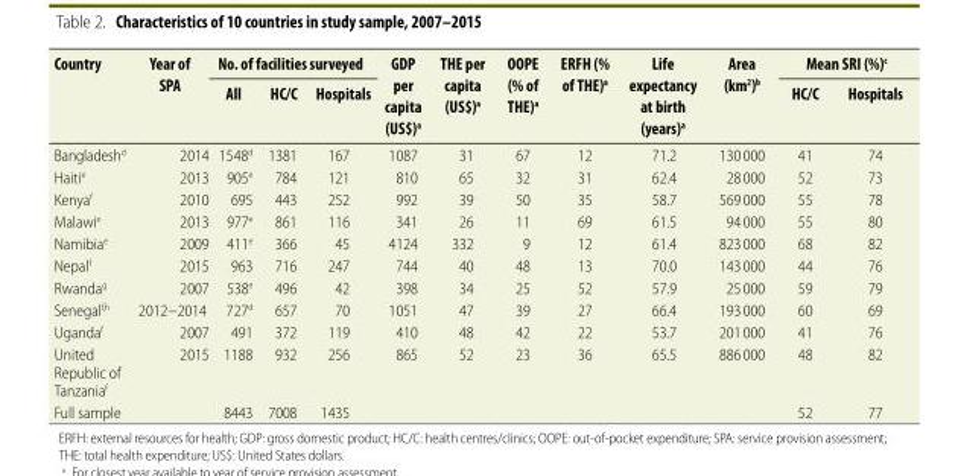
<table><thead><tr><td rowspan="2">Country</td><td rowspan="2">Year of SPA</td><td colspan="3">No. of facilities surveyed</td><td rowspan="2">GDP per capita (US$)<sup>a</sup></td><td rowspan="2">THE per capita (US$)<sup>a</sup></td><td rowspan="2">OOPE (% of THE)<sup>a</sup></td><td rowspan="2">ERFH (% of THE)<sup>a</sup></td><td rowspan="2">Life expectancy at birth (years)<sup>a</sup></td><td rowspan="2">Area (km<sup>2</sup>)<sup>b</sup></td><td colspan="2">Mean SRI (%)<sup>c</sup></td></tr><tr><td>All</td><td>HC/C</td><td>Hospitals</td><td>HC/C</td><td>Hospitals</td></tr></thead><tbody><tr><td>Bangladesh<sup>d</sup></td><td>2014</td><td>1548<sup>d</sup></td><td>1381</td><td>167</td><td>1087</td><td>31</td><td>67</td><td>12</td><td>71.2</td><td>130 000</td><td>41</td><td>74</td></tr><tr><td>Haiti<sup>e</sup></td><td>2013</td><td>905<sup>e</sup></td><td>784</td><td>121</td><td>810</td><td>65</td><td>32</td><td>31</td><td>62.4</td><td>28 000</td><td>52</td><td>73</td></tr><tr><td>Kenya<sup>f</sup></td><td>2010</td><td>695</td><td>443</td><td>252</td><td>992</td><td>39</td><td>50</td><td>35</td><td>58.7</td><td>569 000</td><td>55</td><td>78</td></tr><tr><td>Malawi<sup>e</sup></td><td>2013</td><td>977<sup>e</sup></td><td>861</td><td>116</td><td>341</td><td>26</td><td>11</td><td>69</td><td>61.5</td><td>94 000</td><td>55</td><td>80</td></tr><tr><td>Namibia<sup>e</sup></td><td>2009</td><td>411<sup>e</sup></td><td>366</td><td>45</td><td>4124</td><td>332</td><td>9</td><td>12</td><td>61.4</td><td>823 000</td><td>68</td><td>82</td></tr><tr><td>Nepal<sup>f</sup></td><td>2015</td><td>963</td><td>716</td><td>247</td><td>744</td><td>40</td><td>48</td><td>13</td><td>70.0</td><td>143 000</td><td>44</td><td>76</td></tr><tr><td>Rwanda<sup>g</sup></td><td>2007</td><td>538<sup>e</sup></td><td>496</td><td>42</td><td>398</td><td>34</td><td>25</td><td>52</td><td>57.9</td><td>25 000</td><td>59</td><td>79</td></tr><tr><td>Senegal<sup>f,h</sup></td><td>2012−2014</td><td>727<sup>d</sup></td><td>657</td><td>70</td><td>1051</td><td>47</td><td>39</td><td>27</td><td>66.4</td><td>193 000</td><td>60</td><td>69</td></tr><tr><td>Uganda<sup>f</sup></td><td>2007</td><td>491</td><td>372</td><td>119</td><td>410</td><td>48</td><td>42</td><td>22</td><td>53.7</td><td>201 000</td><td>41</td><td>76</td></tr><tr><td>United Republic of Tanzania<sup>f</sup></td><td>2015</td><td>1188</td><td>932</td><td>256</td><td>865</td><td>52</td><td>23</td><td>36</td><td>65.5</td><td>886 000</td><td>48</td><td>82</td></tr><tr><td>Full sample</td><td></td><td>8443</td><td>7008</td><td>1435</td><td></td><td></td><td></td><td></td><td></td><td></td><td>52</td><td>77</td></tr></tbody></table>